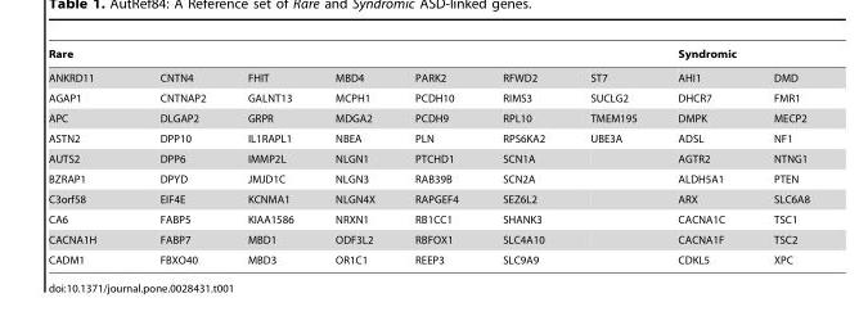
<table><thead><tr><td colspan="7">Rare</td><td colspan="2">Syndromic</td></tr><tr><td>ANKRD11</td><td>CNTN4</td><td>FHIT</td><td>MBD4</td><td>PARK2</td><td>RFWD2</td><td>ST7</td><td>AHI1</td><td>DMD</td></tr></thead><tbody><tr><td>AGAP1</td><td>CNTNAP2</td><td>GALNT13</td><td>MCPH1</td><td>PCDH10</td><td>RIMS3</td><td>SUCLG2</td><td>DHCR7</td><td>FMR1</td></tr><tr><td>APC</td><td>DLGAP2</td><td>GRPR</td><td>MDGA2</td><td>PCDH9</td><td>RPL10</td><td>TMEM195</td><td>DMPK</td><td>MECP2</td></tr><tr><td>ASTN2</td><td>DPP10</td><td>IL1RAPL1</td><td>NBEA</td><td>PLN</td><td>RPS6KA2</td><td>UBE3A</td><td>ADSL</td><td>NF1</td></tr><tr><td>AUTS2</td><td>DPP6</td><td>IMMP2L</td><td>NLGN1</td><td>PTCHD1</td><td>SCN1A</td><td></td><td>AGTR2</td><td>NTNG1</td></tr><tr><td>BZRAP1</td><td>DPYD</td><td>JMJD1C</td><td>NLGN3</td><td>RAB39B</td><td>SCN2A</td><td></td><td>ALDH5A1</td><td>PTEN</td></tr><tr><td>C3orf58</td><td>EIF4E</td><td>KCNMA1</td><td>NLGN4X</td><td>RAPGEF4</td><td>SEZ6L2</td><td></td><td>ARX</td><td>SLC6A8</td></tr><tr><td>CA6</td><td>FABP5</td><td>KIAA1586</td><td>NRXN1</td><td>RB1CC1</td><td>SHANK3</td><td></td><td>CACNA1C</td><td>TSC1</td></tr><tr><td>CACNA1H</td><td>FABP7</td><td>MBD1</td><td>ODF3L2</td><td>RBFOX1</td><td>SLC4A10</td><td></td><td>CACNA1F</td><td>TSC2</td></tr><tr><td>CADM1</td><td>FBXO40</td><td>MBD3</td><td>OR1C1</td><td>REEP3</td><td>SLC9A9</td><td></td><td>CDKL5</td><td>XPC</td></tr></tbody></table>